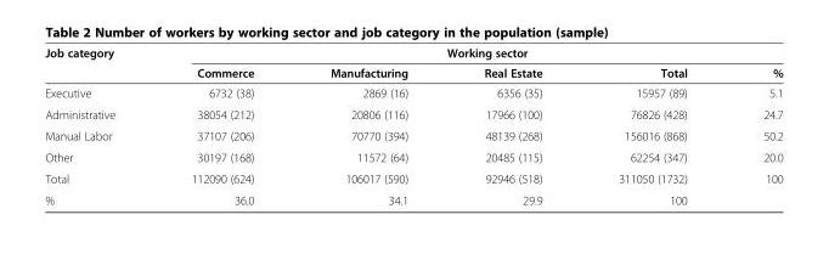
<table><thead><tr><td rowspan="2">Job category</td><td colspan="5">Working sector</td></tr><tr><td>Commerce</td><td>Manufacturing</td><td>Real Estate</td><td>Total</td><td>%</td></tr></thead><tbody><tr><td>Executive</td><td>6732 (38)</td><td>2869 (16)</td><td>6356 (35)</td><td>15957 (89)</td><td>5.1</td></tr><tr><td>Administrative</td><td>38054 (212)</td><td>20806 (116)</td><td>17966 (100)</td><td>76826 (428)</td><td>24.7</td></tr><tr><td>Manual Labor</td><td>37107 (206)</td><td>70770 (394)</td><td>48139 (268)</td><td>156016 (868)</td><td>50.2</td></tr><tr><td>Other</td><td>30197 (168)</td><td>11572 (64)</td><td>20485 (115)</td><td>62254 (347)</td><td>20.0</td></tr><tr><td>Total</td><td>112090 (624)</td><td>106017 (590)</td><td>92946 (518)</td><td>311050 (1732)</td><td>100</td></tr><tr><td>%</td><td>36.0</td><td>34.1</td><td>29.9</td><td>100</td><td></td></tr></tbody></table>